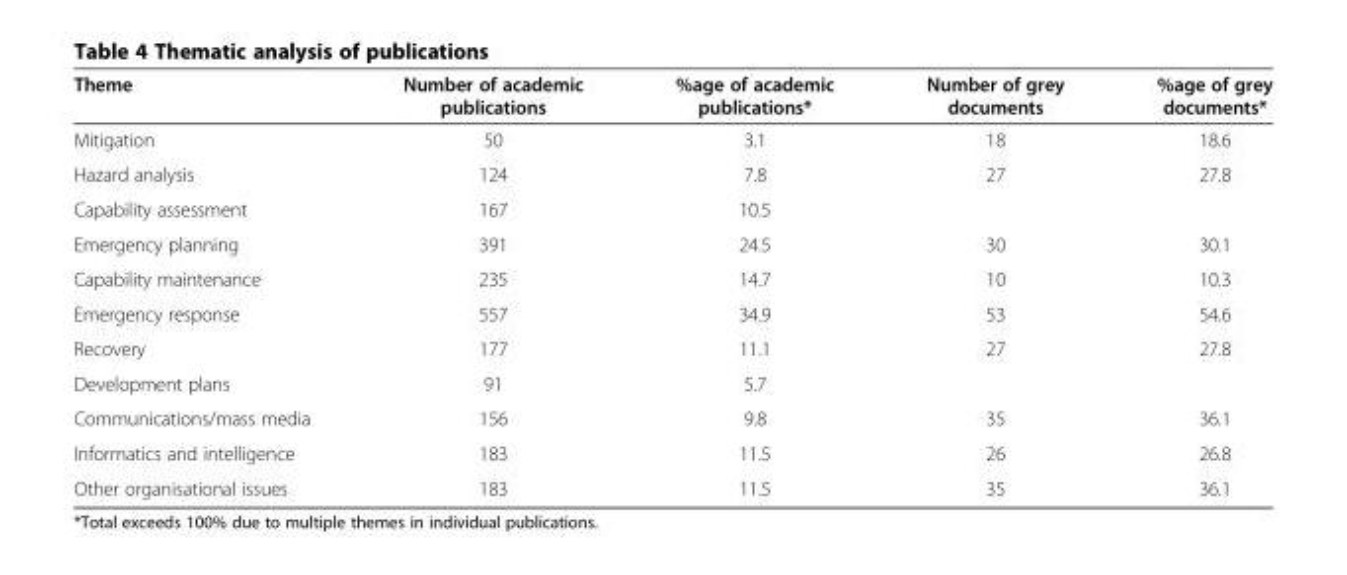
<table><thead><tr><td>Theme</td><td>Number of academic publications</td><td>%age of academic publications*</td><td>Number of grey documents</td><td>%age of grey documents*</td></tr></thead><tbody><tr><td>Mitigation</td><td>50</td><td>3.1</td><td>18</td><td>18.6</td></tr><tr><td>Hazard analysis</td><td>124</td><td>7.8</td><td>27</td><td>27.8</td></tr><tr><td>Capability assessment</td><td>167</td><td>10.5</td><td></td><td></td></tr><tr><td>Emergency planning</td><td>391</td><td>24.5</td><td>30</td><td>30.1</td></tr><tr><td>Capability maintenance</td><td>235</td><td>14.7</td><td>10</td><td>10.3</td></tr><tr><td>Emergency response</td><td>557</td><td>34.9</td><td>53</td><td>54.6</td></tr><tr><td>Recovery</td><td>177</td><td>11.1</td><td>27</td><td>27.8</td></tr><tr><td>Development plans</td><td>91</td><td>5.7</td><td></td><td></td></tr><tr><td>Communications/mass media</td><td>156</td><td>9.8</td><td>35</td><td>36.1</td></tr><tr><td>Informatics and intelligence</td><td>183</td><td>11.5</td><td>26</td><td>26.8</td></tr><tr><td>Other organisational issues</td><td>183</td><td>11.5</td><td>35</td><td>36.1</td></tr></tbody></table>